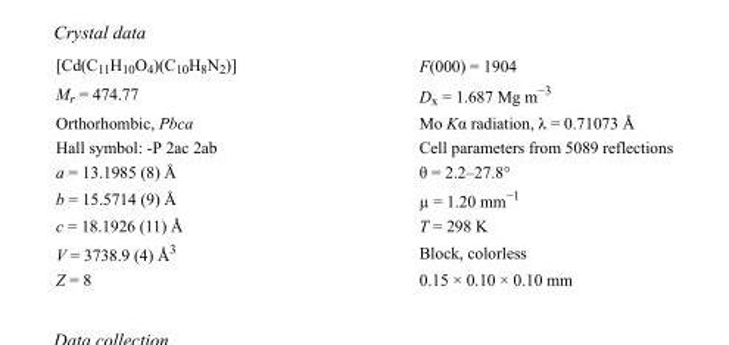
<table><tbody><tr><td>[Cd(C<sub>11</sub>H<sub>10</sub>O<sub>4</sub>)(C<sub>10</sub>H<sub>8</sub>N<sub>2</sub>)]</td><td>F(000) = 1904</td></tr><tr><td>M<sub>r</sub> = 474.77</td><td>D<sub>x</sub> = 1.687 Mg m<sup>−3</sup></td></tr><tr><td>Orthorhombic, Pbca</td><td>Mo Kα radiation, λ = 0.71073 Å</td></tr><tr><td>Hall symbol: -P 2ac 2ab</td><td>Cell parameters from 5089 reflections</td></tr><tr><td>a = 13.1985 (8) Å</td><td>θ = 2.2–27.8°</td></tr><tr><td>b = 15.5714 (9) Å</td><td>µ = 1.20 mm<sup>−1</sup></td></tr><tr><td>c = 18.1926 (11) Å</td><td>T = 298 K</td></tr><tr><td>V = 3738.9 (4) Å<sup>3</sup></td><td>Block, colorless</td></tr><tr><td>Z = 8</td><td>0.15 × 0.10 × 0.10 mm</td></tr></tbody></table>